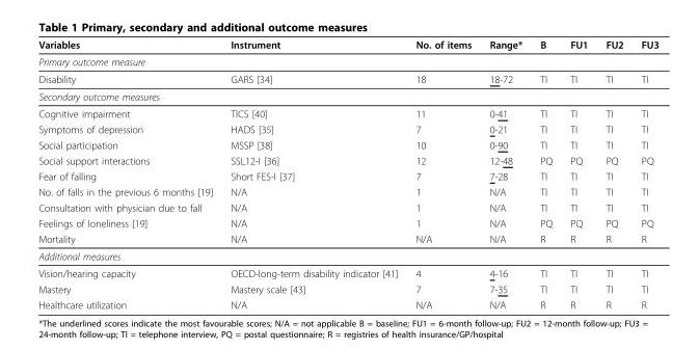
<table><thead><tr><td>Variables</td><td>Instrument</td><td>No. of items</td><td>Range*</td><td>B</td><td>FU1</td><td>FU2</td><td>FU3</td></tr></thead><tbody><tr><td colspan="8">Primary outcome measure</td></tr><tr><td>Disability</td><td>GARS [34]</td><td>18</td><td>18-72</td><td>TI</td><td>TI</td><td>TI</td><td>TI</td></tr><tr><td colspan="8">Secondary outcome measures</td></tr><tr><td>Cognitive impairment</td><td>TICS [40]</td><td>11</td><td>0-41</td><td>TI</td><td>TI</td><td>TI</td><td>TI</td></tr><tr><td>Symptoms of depression</td><td>HADS [35]</td><td>7</td><td>0-21</td><td>TI</td><td>TI</td><td>TI</td><td>TI</td></tr><tr><td>Social participation</td><td>MSSP [38]</td><td>10</td><td>0-90</td><td>TI</td><td>TI</td><td>TI</td><td>TI</td></tr><tr><td>Social support interactions</td><td>SSL12-I [36]</td><td>12</td><td>12-48</td><td>PQ</td><td>PQ</td><td>PQ</td><td>PQ</td></tr><tr><td>Fear of falling</td><td>Short FES-I [37]</td><td>7</td><td>7-28</td><td>TI</td><td>TI</td><td>TI</td><td>TI</td></tr><tr><td>No. of falls in the previous 6 months [19]</td><td>N/A</td><td>1</td><td>N/A</td><td>TI</td><td>TI</td><td>TI</td><td>TI</td></tr><tr><td>Consultation with physician due to fall</td><td>N/A</td><td>1</td><td>N/A</td><td>TI</td><td>TI</td><td>TI</td><td>TI</td></tr><tr><td>Feelings of loneliness [19]</td><td>N/A</td><td>1</td><td>N/A</td><td>PQ</td><td>PQ</td><td>PQ</td><td>PQ</td></tr><tr><td>Mortality</td><td>N/A</td><td>N/A</td><td>N/A</td><td>R</td><td>R</td><td>R</td><td>R</td></tr><tr><td colspan="8">Additional measures</td></tr><tr><td>Vision/hearing capacity</td><td>OECD-long-term disability indicator [41]</td><td>4</td><td>4-16</td><td>TI</td><td>TI</td><td>TI</td><td>TI</td></tr><tr><td>Mastery</td><td>Mastery scale [43]</td><td>7</td><td>7-35</td><td>TI</td><td>TI</td><td>TI</td><td>TI</td></tr><tr><td>Healthcare utilization</td><td>N/A</td><td>N/A</td><td>N/A</td><td>R</td><td>R</td><td>R</td><td>R</td></tr></tbody></table>